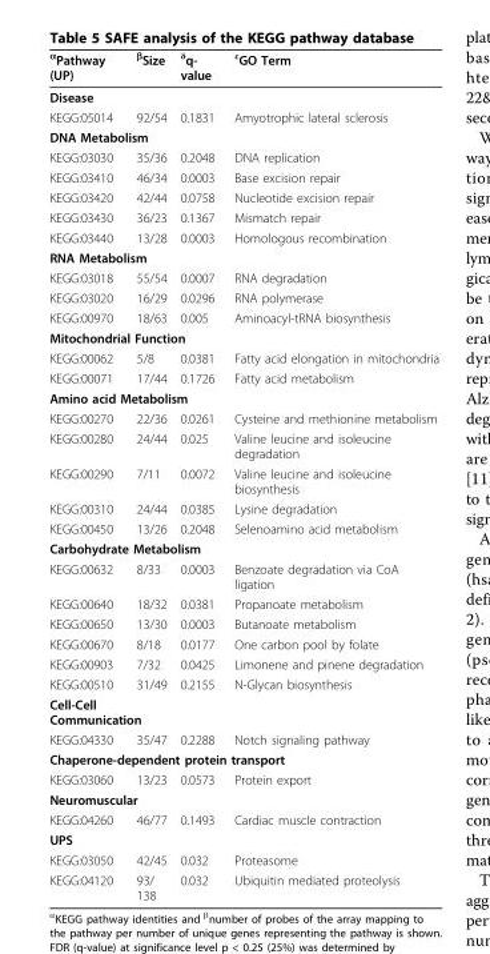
<table><thead><tr><td><sup>α</sup>Pathway (UP)</td><td><sup>β</sup>Size</td><td><sup>δ</sup>q- value</td><td><sup>ε</sup>GO Term</td></tr></thead><tbody><tr><td colspan="4">Disease</td></tr><tr><td>KEGG:05014</td><td>92/54</td><td>0.1831</td><td>Amyotrophic lateral sclerosis</td></tr><tr><td colspan="4">DNA Metabolism</td></tr><tr><td>KEGG:03030</td><td>35/36</td><td>0.2048</td><td>DNA replication</td></tr><tr><td>KEGG:03410</td><td>46/34</td><td>0.0003</td><td>Base excision repair</td></tr><tr><td>KEGG:03420</td><td>42/44</td><td>0.0758</td><td>Nucleotide excision repair</td></tr><tr><td>KEGG:03430</td><td>36/23</td><td>0.1367</td><td>Mismatch repair</td></tr><tr><td>KEGG:03440</td><td>13/28</td><td>0.0003</td><td>Homologous recombination</td></tr><tr><td colspan="4">RNA Metabolism</td></tr><tr><td>KEGG:03018</td><td>55/54</td><td>0.0007</td><td>RNA degradation</td></tr><tr><td>KEGG:03020</td><td>16/29</td><td>0.0296</td><td>RNA polymerase</td></tr><tr><td>KEGG:00970</td><td>18/63</td><td>0.005</td><td>Aminoacyl-tRNA biosynthesis</td></tr><tr><td colspan="4">Mitochondrial Function</td></tr><tr><td>KEGG:00062</td><td>5/8</td><td>0.0381</td><td>Fatty acid elongation in mitochondria</td></tr><tr><td>KEGG:00071</td><td>17/44</td><td>0.1726</td><td>Fatty acid metabolism</td></tr><tr><td colspan="4">Amino acid Metabolism</td></tr><tr><td>KEGG:00270</td><td>22/36</td><td>0.0261</td><td>Cysteine and methionine metabolism</td></tr><tr><td>KEGG:00280</td><td>24/44</td><td>0.025</td><td>Valine leucine and isoleucine degradation</td></tr><tr><td>KEGG:00290</td><td>7/11</td><td>0.0072</td><td>Valine leucine and isoleucine biosynthesis</td></tr><tr><td>KEGG:00310</td><td>24/44</td><td>0.0385</td><td>Lysine degradation</td></tr><tr><td>KEGG:00450</td><td>13/26</td><td>0.2048</td><td>Selenoamino acid metabolism</td></tr><tr><td colspan="4">Carbohydrate Metabolism</td></tr><tr><td>KEGG:00632</td><td>8/33</td><td>0.0003</td><td>Benzoate degradation via CoA ligation</td></tr><tr><td>KEGG:00640</td><td>18/32</td><td>0.0381</td><td>Propanoate metabolism</td></tr><tr><td>KEGG:00650</td><td>13/30</td><td>0.0003</td><td>Butanoate metabolism</td></tr><tr><td>KEGG:00670</td><td>8/18</td><td>0.0177</td><td>One carbon pool by folate</td></tr><tr><td>KEGG:00903</td><td>7/32</td><td>0.0425</td><td>Limonene and pinene degradation</td></tr><tr><td>KEGG:00510</td><td>31/49</td><td>0.2155</td><td>N-Glycan biosynthesis</td></tr><tr><td colspan="4">Cell-Cell Communication</td></tr><tr><td>KEGG:04330</td><td>35/47</td><td>0.2288</td><td>Notch signaling pathway</td></tr><tr><td colspan="4">Chaperone-dependent protein transport</td></tr><tr><td>KEGG:03060</td><td>13/23</td><td>0.0573</td><td>Protein export</td></tr><tr><td colspan="4">Neuromuscular</td></tr><tr><td>KEGG:04260</td><td>46/77</td><td>0.1493</td><td>Cardiac muscle contraction</td></tr><tr><td colspan="4">UPS</td></tr><tr><td>KEGG:03050</td><td>42/45</td><td>0.032</td><td>Proteasome</td></tr><tr><td>KEGG:04120</td><td>93/ 138</td><td>0.032</td><td>Ubiquitin mediated proteolysis</td></tr></tbody></table>